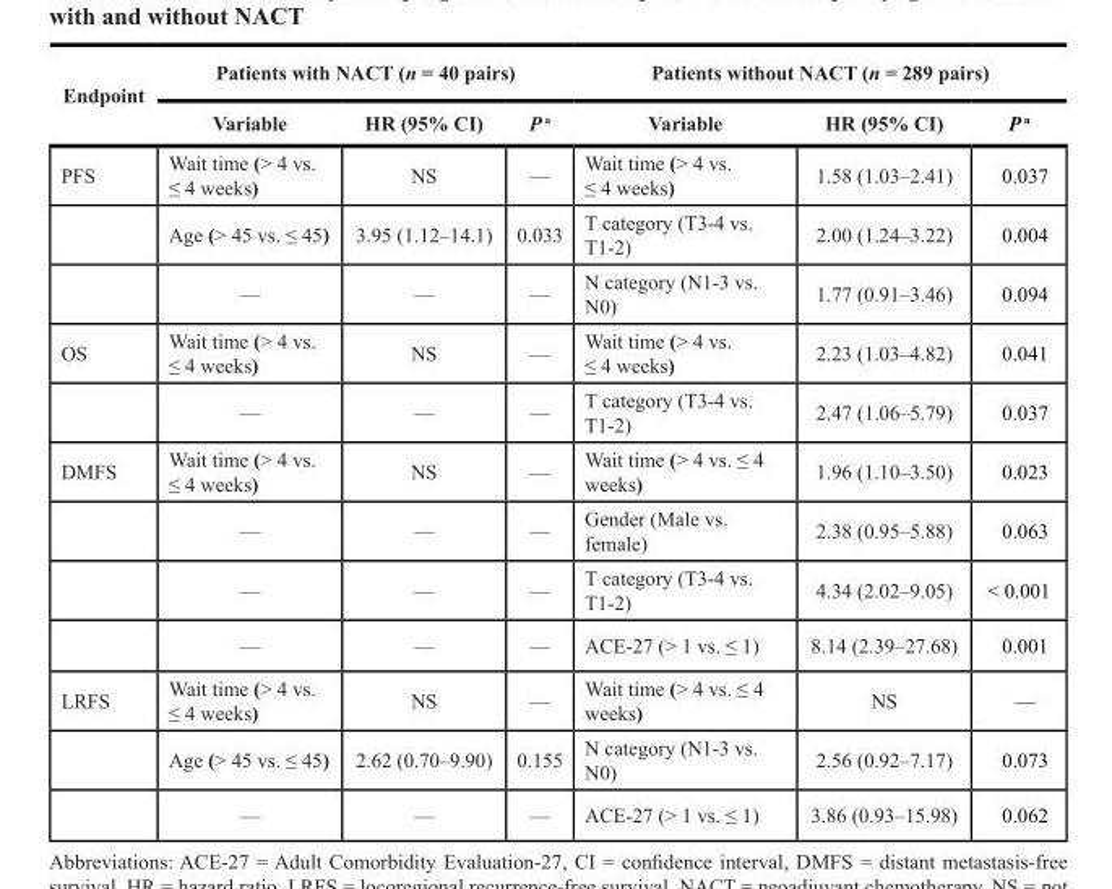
<table><thead><tr><td rowspan="2">Endpoint</td><td colspan="3">Patients with NACT (n = 40 pairs)</td><td colspan="3">Patients without NACT (n = 289 pairs)</td></tr><tr><td>Variable</td><td>HR (95% CI)</td><td>P <sup>a</sup></td><td>Variable</td><td>HR (95% CI)</td><td>P <sup>a</sup></td></tr></thead><tbody><tr><td rowspan="3">PFS</td><td>Wait time (&gt; 4 vs. ≤ 4 weeks)</td><td>NS</td><td>—</td><td>Wait time (&gt; 4 vs. ≤ 4 weeks)</td><td>1.58 (1.03–2.41)</td><td>0.037</td></tr><tr><td>Age (&gt; 45 vs. ≤ 45)</td><td>3.95 (1.12–14.1)</td><td>0.033</td><td>T category (T3-4 vs. T1-2)</td><td>2.00 (1.24–3.22)</td><td>0.004</td></tr><tr><td>—</td><td>—</td><td>—</td><td>N category (N1-3 vs. N0)</td><td>1.77 (0.91–3.46)</td><td>0.094</td></tr><tr><td rowspan="2">OS</td><td>Wait time (&gt; 4 vs. ≤ 4 weeks)</td><td>NS</td><td>—</td><td>Wait time (&gt; 4 vs. ≤ 4 weeks)</td><td>2.23 (1.03–4.82)</td><td>0.041</td></tr><tr><td>—</td><td>—</td><td>—</td><td>T category (T3-4 vs. T1-2)</td><td>2.47 (1.06–5.79)</td><td>0.037</td></tr><tr><td rowspan="4">DMFS</td><td>Wait time (&gt; 4 vs. ≤ 4 weeks)</td><td>NS</td><td>—</td><td>Wait time (&gt; 4 vs. ≤ 4 weeks)</td><td>1.96 (1.10–3.50)</td><td>0.023</td></tr><tr><td>—</td><td>—</td><td>—</td><td>Gender (Male vs. female)</td><td>2.38 (0.95–5.88)</td><td>0.063</td></tr><tr><td>—</td><td>—</td><td>—</td><td>T category (T3-4 vs. T1-2)</td><td>4.34 (2.02–9.05)</td><td>&lt; 0.001</td></tr><tr><td>—</td><td>—</td><td>—</td><td>ACE-27 (&gt; 1 vs. ≤ 1)</td><td>8.14 (2.39–27.68)</td><td>0.001</td></tr><tr><td rowspan="3">LRFS</td><td>Wait time (&gt; 4 vs. ≤ 4 weeks)</td><td>NS</td><td>—</td><td>Wait time (&gt; 4 vs. ≤ 4 weeks)</td><td>NS</td><td>—</td></tr><tr><td>Age (&gt; 45 vs. ≤ 45)</td><td>2.62 (0.70–9.90)</td><td>0.155</td><td>N category (N1-3 vs. N0)</td><td>2.56 (0.92–7.17)</td><td>0.073</td></tr><tr><td>—</td><td>—</td><td>—</td><td>ACE-27 (&gt; 1 vs. ≤ 1)</td><td>3.86 (0.93–15.98)</td><td>0.062</td></tr></tbody></table>